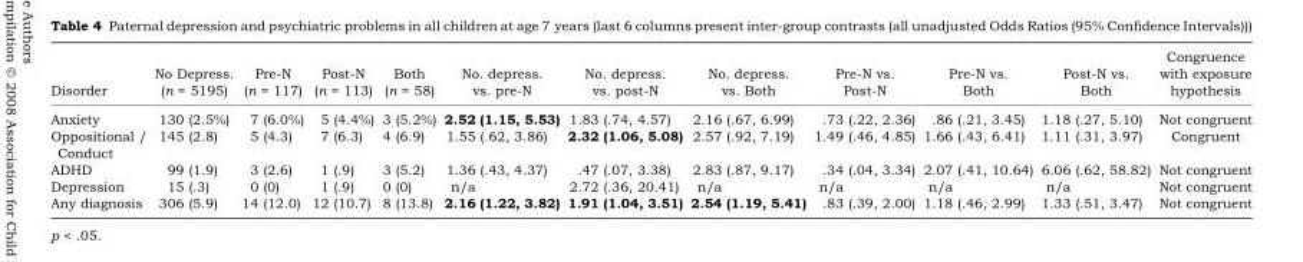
<table><thead><tr><td>Disorder</td><td>No Depress. (n = 5195)</td><td>Pre-N (n = 117)</td><td>Post-N (n = 113)</td><td>Both (n = 58)</td><td>No. depress. vs. pre-N</td><td>No. depress. vs. post-N</td><td>No. depress. vs. Both</td><td>Pre-N vs. Post-N</td><td>Pre-N vs. Both</td><td>Post-N vs. Both</td><td>Congruence with exposure hypothesis</td></tr></thead><tbody><tr><td>Anxiety</td><td>130 (2.5%)</td><td>7 (6.0%)</td><td>5 (4.4%)</td><td>3 (5.2%)</td><td>2.52 (1.15, 5.53)</td><td>1.83 (.74, 4.57)</td><td>2.16 (.67, 6.99)</td><td>.73 (.22, 2.36)</td><td>.86 (.21, 3.45)</td><td>1.18 (.27, 5.10)</td><td>Not congruent</td></tr><tr><td>Oppositional / Conduct</td><td>145 (2.8)</td><td>5 (4.3)</td><td>7 (6.3)</td><td>4 (6.9)</td><td>1.55 (.62, 3.86)</td><td>2.32 (1.06, 5.08)</td><td>2.57 (.92, 7.19)</td><td>1.49 (.46, 4.85)</td><td>1.66 (.43, 6.41)</td><td>1.11 (.31, 3.97)</td><td>Congruent</td></tr><tr><td>ADHD</td><td>99 (1.9)</td><td>3 (2.6)</td><td>1 (.9)</td><td>3 (5.2)</td><td>1.36 (.43, 4.37)</td><td>.47 (.07, 3.38)</td><td>2.83 (.87, 9.17)</td><td>.34 (.04, 3.34)</td><td>2.07 (.41, 10.64)</td><td>6.06 (.62, 58.82)</td><td>Not congruent</td></tr><tr><td>Depression</td><td>15 (.3)</td><td>0 (0)</td><td>1 (.9)</td><td>0 (0)</td><td>n/a</td><td>2.72 (.36, 20.41)</td><td>n/a</td><td>n/a</td><td>n/a</td><td>n/a</td><td>Not congruent</td></tr><tr><td>Any diagnosis</td><td>306 (5.9)</td><td>14 (12.0)</td><td>12 (10.7)</td><td>8 (13.8)</td><td>2.16 (1.22, 3.82)</td><td>1.91 (1.04, 3.51)</td><td>2.54 (1.19, 5.41)</td><td>.83 (.39, 2.00)</td><td>1.18 (.46, 2.99)</td><td>1.33 (.51, 3.47)</td><td>Not congruent</td></tr></tbody></table>